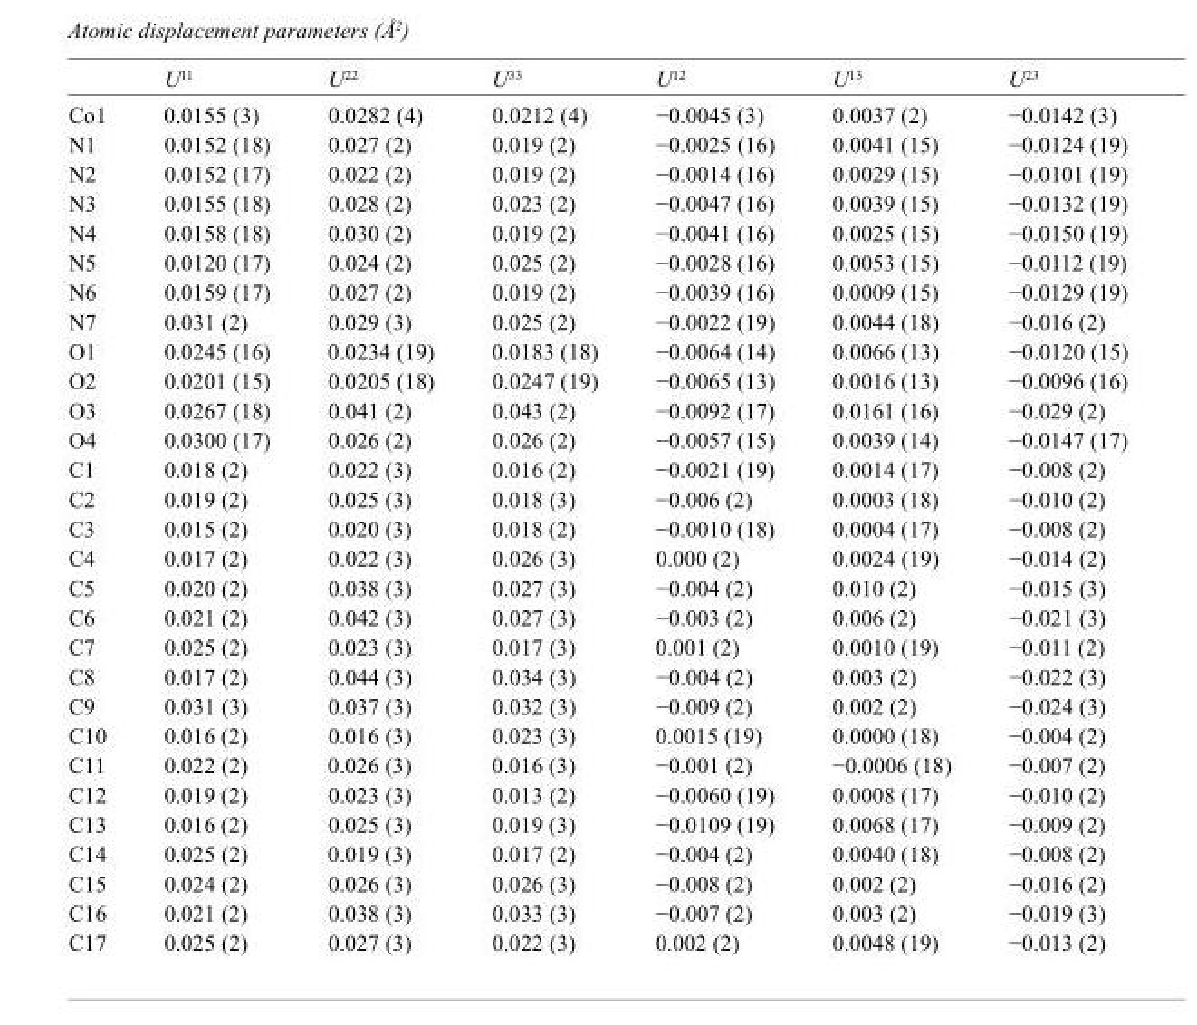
<table><thead><tr><td></td><td>U<sup>11</sup></td><td>U<sup>22</sup></td><td>U<sup>33</sup></td><td>U<sup>12</sup></td><td>U<sup>13</sup></td><td>U<sup>23</sup></td></tr></thead><tbody><tr><td>Co1</td><td>0.0155 (3)</td><td>0.0282 (4)</td><td>0.0212 (4)</td><td>−0.0045 (3)</td><td>0.0037 (2)</td><td>−0.0142 (3)</td></tr><tr><td>N1</td><td>0.0152 (18)</td><td>0.027 (2)</td><td>0.019 (2)</td><td>−0.0025 (16)</td><td>0.0041 (15)</td><td>−0.0124 (19)</td></tr><tr><td>N2</td><td>0.0152 (17)</td><td>0.022 (2)</td><td>0.019 (2)</td><td>−0.0014 (16)</td><td>0.0029 (15)</td><td>−0.0101 (19)</td></tr><tr><td>N3</td><td>0.0155 (18)</td><td>0.028 (2)</td><td>0.023 (2)</td><td>−0.0047 (16)</td><td>0.0039 (15)</td><td>−0.0132 (19)</td></tr><tr><td>N4</td><td>0.0158 (18)</td><td>0.030 (2)</td><td>0.019 (2)</td><td>−0.0041 (16)</td><td>0.0025 (15)</td><td>−0.0150 (19)</td></tr><tr><td>N5</td><td>0.0120 (17)</td><td>0.024 (2)</td><td>0.025 (2)</td><td>−0.0028 (16)</td><td>0.0053 (15)</td><td>−0.0112 (19)</td></tr><tr><td>N6</td><td>0.0159 (17)</td><td>0.027 (2)</td><td>0.019 (2)</td><td>−0.0039 (16)</td><td>0.0009 (15)</td><td>−0.0129 (19)</td></tr><tr><td>N7</td><td>0.031 (2)</td><td>0.029 (3)</td><td>0.025 (2)</td><td>−0.0022 (19)</td><td>0.0044 (18)</td><td>−0.016 (2)</td></tr><tr><td>O1</td><td>0.0245 (16)</td><td>0.0234 (19)</td><td>0.0183 (18)</td><td>−0.0064 (14)</td><td>0.0066 (13)</td><td>−0.0120 (15)</td></tr><tr><td>O2</td><td>0.0201 (15)</td><td>0.0205 (18)</td><td>0.0247 (19)</td><td>−0.0065 (13)</td><td>0.0016 (13)</td><td>−0.0096 (16)</td></tr><tr><td>O3</td><td>0.0267 (18)</td><td>0.041 (2)</td><td>0.043 (2)</td><td>−0.0092 (17)</td><td>0.0161 (16)</td><td>−0.029 (2)</td></tr><tr><td>O4</td><td>0.0300 (17)</td><td>0.026 (2)</td><td>0.026 (2)</td><td>−0.0057 (15)</td><td>0.0039 (14)</td><td>−0.0147 (17)</td></tr><tr><td>C1</td><td>0.018 (2)</td><td>0.022 (3)</td><td>0.016 (2)</td><td>−0.0021 (19)</td><td>0.0014 (17)</td><td>−0.008 (2)</td></tr><tr><td>C2</td><td>0.019 (2)</td><td>0.025 (3)</td><td>0.018 (3)</td><td>−0.006 (2)</td><td>0.0003 (18)</td><td>−0.010 (2)</td></tr><tr><td>C3</td><td>0.015 (2)</td><td>0.020 (3)</td><td>0.018 (2)</td><td>−0.0010 (18)</td><td>0.0004 (17)</td><td>−0.008 (2)</td></tr><tr><td>C4</td><td>0.017 (2)</td><td>0.022 (3)</td><td>0.026 (3)</td><td>0.000 (2)</td><td>0.0024 (19)</td><td>−0.014 (2)</td></tr><tr><td>C5</td><td>0.020 (2)</td><td>0.038 (3)</td><td>0.027 (3)</td><td>−0.004 (2)</td><td>0.010 (2)</td><td>−0.015 (3)</td></tr><tr><td>C6</td><td>0.021 (2)</td><td>0.042 (3)</td><td>0.027 (3)</td><td>−0.003 (2)</td><td>0.006 (2)</td><td>−0.021 (3)</td></tr><tr><td>C7</td><td>0.025 (2)</td><td>0.023 (3)</td><td>0.017 (3)</td><td>0.001 (2)</td><td>0.0010 (19)</td><td>−0.011 (2)</td></tr><tr><td>C8</td><td>0.017 (2)</td><td>0.044 (3)</td><td>0.034 (3)</td><td>−0.004 (2)</td><td>0.003 (2)</td><td>−0.022 (3)</td></tr><tr><td>C9</td><td>0.031 (3)</td><td>0.037 (3)</td><td>0.032 (3)</td><td>−0.009 (2)</td><td>0.002 (2)</td><td>−0.024 (3)</td></tr><tr><td>C10</td><td>0.016 (2)</td><td>0.016 (3)</td><td>0.023 (3)</td><td>0.0015 (19)</td><td>0.0000 (18)</td><td>−0.004 (2)</td></tr><tr><td>C11</td><td>0.022 (2)</td><td>0.026 (3)</td><td>0.016 (3)</td><td>−0.001 (2)</td><td>−0.0006 (18)</td><td>−0.007 (2)</td></tr><tr><td>C12</td><td>0.019 (2)</td><td>0.023 (3)</td><td>0.013 (2)</td><td>−0.0060 (19)</td><td>0.0008 (17)</td><td>−0.010 (2)</td></tr><tr><td>C13</td><td>0.016 (2)</td><td>0.025 (3)</td><td>0.019 (3)</td><td>−0.0109 (19)</td><td>0.0068 (17)</td><td>−0.009 (2)</td></tr><tr><td>C14</td><td>0.025 (2)</td><td>0.019 (3)</td><td>0.017 (2)</td><td>−0.004 (2)</td><td>0.0040 (18)</td><td>−0.008 (2)</td></tr><tr><td>C15</td><td>0.024 (2)</td><td>0.026 (3)</td><td>0.026 (3)</td><td>−0.008 (2)</td><td>0.002 (2)</td><td>−0.016 (2)</td></tr><tr><td>C16</td><td>0.021 (2)</td><td>0.038 (3)</td><td>0.033 (3)</td><td>−0.007 (2)</td><td>0.003 (2)</td><td>−0.019 (3)</td></tr><tr><td>C17</td><td>0.025 (2)</td><td>0.027 (3)</td><td>0.022 (3)</td><td>0.002 (2)</td><td>0.0048 (19)</td><td>−0.013 (2)</td></tr></tbody></table>